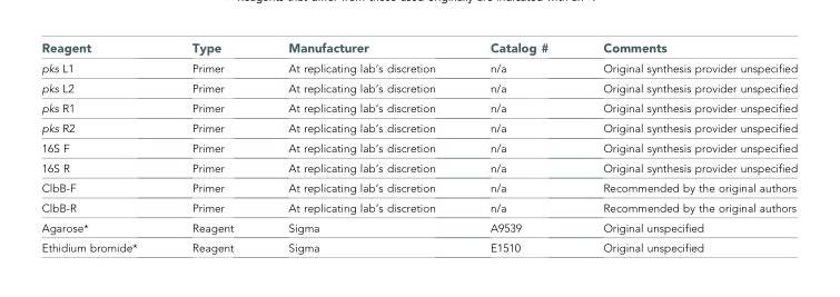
<table><thead><tr><td>Reagent</td><td>Type</td><td>Manufacturer</td><td>Catalog #</td><td>Comments</td></tr></thead><tbody><tr><td>pks L1</td><td>Primer</td><td>At replicating lab’s discretion</td><td>n/a</td><td>Original synthesis provider unspecified</td></tr><tr><td>pks L2</td><td>Primer</td><td>At replicating lab’s discretion</td><td>n/a</td><td>Original synthesis provider unspecified</td></tr><tr><td>pks R1</td><td>Primer</td><td>At replicating lab’s discretion</td><td>n/a</td><td>Original synthesis provider unspecified</td></tr><tr><td>pks R2</td><td>Primer</td><td>At replicating lab’s discretion</td><td>n/a</td><td>Original synthesis provider unspecified</td></tr><tr><td>16S F</td><td>Primer</td><td>At replicating lab’s discretion</td><td>n/a</td><td>Original synthesis provider unspecified</td></tr><tr><td>16S R</td><td>Primer</td><td>At replicating lab’s discretion</td><td>n/a</td><td>Original synthesis provider unspecified</td></tr><tr><td>ClbB-F</td><td>Primer</td><td>At replicating lab’s discretion</td><td>n/a</td><td>Recommended by the original authors</td></tr><tr><td>ClbB-R</td><td>Primer</td><td>At replicating lab’s discretion</td><td>n/a</td><td>Recommended by the original authors</td></tr><tr><td>Agarose*</td><td>Reagent</td><td>Sigma</td><td>A9539</td><td>Original unspecified</td></tr><tr><td>Ethidium bromide*</td><td>Reagent</td><td>Sigma</td><td>E1510</td><td>Original unspecified</td></tr></tbody></table>